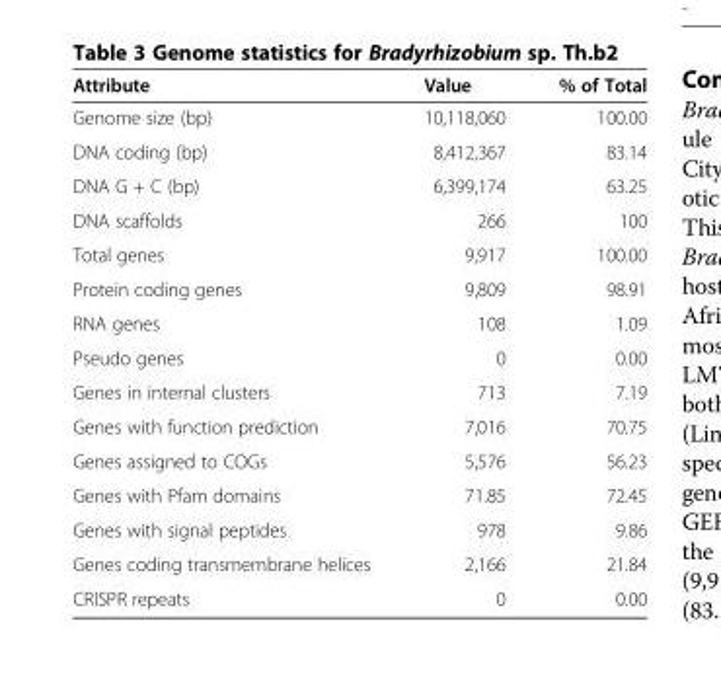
<table><thead><tr><td>Attribute</td><td>Value</td><td>% of Total</td></tr></thead><tbody><tr><td>Genome size (bp)</td><td>10,118,060</td><td>100.00</td></tr><tr><td>DNA coding (bp)</td><td>8,412,367</td><td>83.14</td></tr><tr><td>DNA G + C (bp)</td><td>6,399,174</td><td>63.25</td></tr><tr><td>DNA scaffolds</td><td>266</td><td>100</td></tr><tr><td>Total genes</td><td>9,917</td><td>100.00</td></tr><tr><td>Protein coding genes</td><td>9,809</td><td>98.91</td></tr><tr><td>RNA genes</td><td>108</td><td>1.09</td></tr><tr><td>Pseudo genes</td><td>0</td><td>0.00</td></tr><tr><td>Genes in internal clusters</td><td>713</td><td>7.19</td></tr><tr><td>Genes with function prediction</td><td>7,016</td><td>70.75</td></tr><tr><td>Genes assigned to COGs</td><td>5,576</td><td>56.23</td></tr><tr><td>Genes with Pfam domains</td><td>71.85</td><td>72.45</td></tr><tr><td>Genes with signal peptides</td><td>978</td><td>9.86</td></tr><tr><td>Genes coding transmembrane helices</td><td>2,166</td><td>21.84</td></tr><tr><td>CRISPR repeats</td><td>0</td><td>0.00</td></tr></tbody></table>